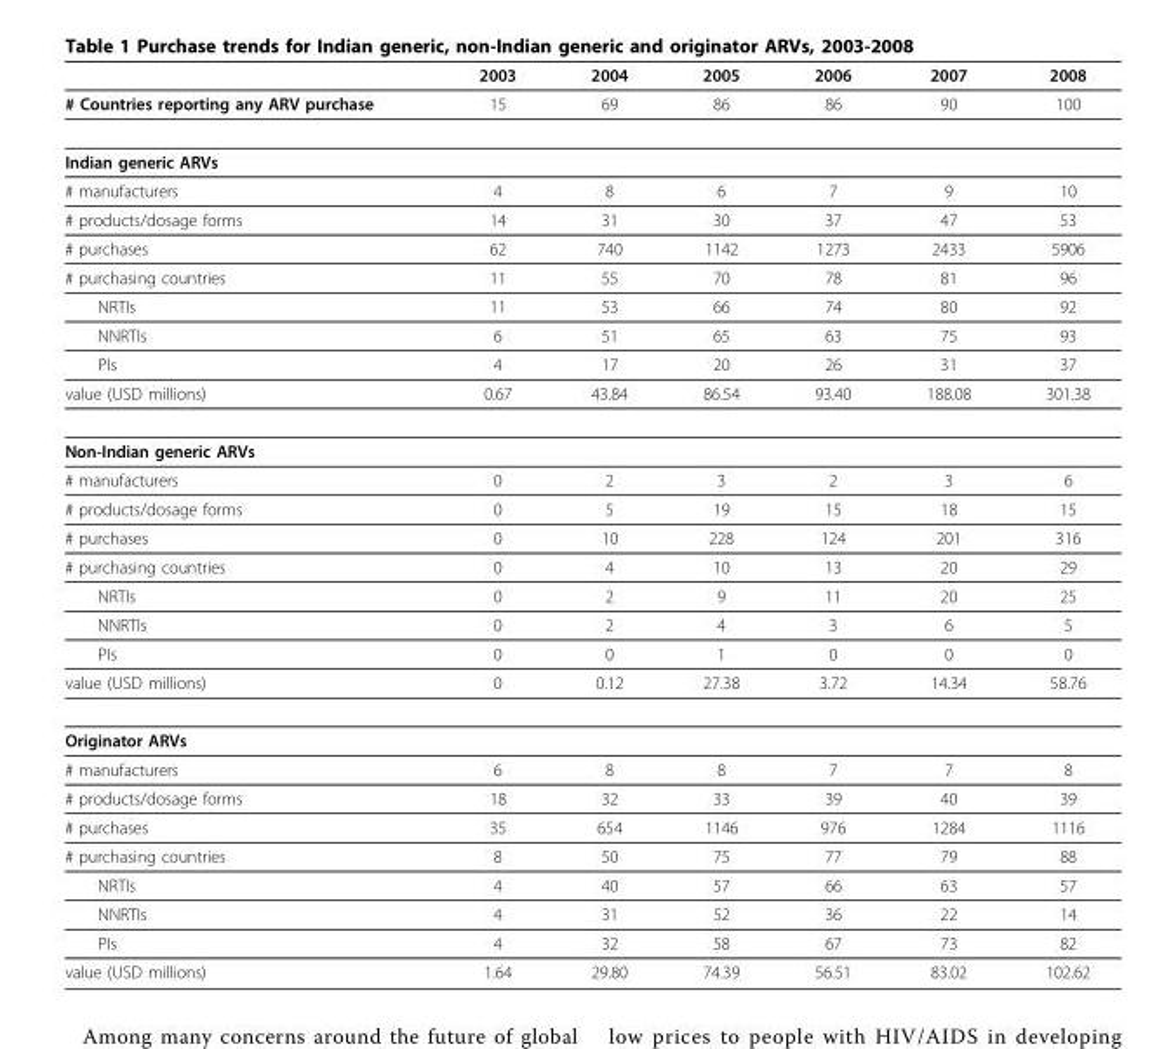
<table><thead><tr><td></td><td>2003</td><td>2004</td><td>2005</td><td>2006</td><td>2007</td><td>2008</td></tr></thead><tbody><tr><td># Countries reporting any ARV purchase</td><td>15</td><td>69</td><td>86</td><td>86</td><td>90</td><td>100</td></tr><tr><td colspan="7">Indian generic ARVs</td></tr><tr><td># manufacturers</td><td>4</td><td>8</td><td>6</td><td>7</td><td>9</td><td>10</td></tr><tr><td># products/dosage forms</td><td>14</td><td>31</td><td>30</td><td>37</td><td>47</td><td>53</td></tr><tr><td># purchases</td><td>62</td><td>740</td><td>1142</td><td>1273</td><td>2433</td><td>5906</td></tr><tr><td># purchasing countries</td><td>11</td><td>55</td><td>70</td><td>78</td><td>81</td><td>96</td></tr><tr><td>NRTIs</td><td>11</td><td>53</td><td>66</td><td>74</td><td>80</td><td>92</td></tr><tr><td>NNRTIs</td><td>6</td><td>51</td><td>65</td><td>63</td><td>75</td><td>93</td></tr><tr><td>PIs</td><td>4</td><td>17</td><td>20</td><td>26</td><td>31</td><td>37</td></tr><tr><td>value (USD millions)</td><td>0.67</td><td>43.84</td><td>86.54</td><td>93.40</td><td>188.08</td><td>301.38</td></tr><tr><td colspan="7">Non-Indian generic ARVs</td></tr><tr><td># manufacturers</td><td>0</td><td>2</td><td>3</td><td>2</td><td>3</td><td>6</td></tr><tr><td># products/dosage forms</td><td>0</td><td>5</td><td>19</td><td>15</td><td>18</td><td>15</td></tr><tr><td># purchases</td><td>0</td><td>10</td><td>228</td><td>124</td><td>201</td><td>316</td></tr><tr><td># purchasing countries</td><td>0</td><td>4</td><td>10</td><td>13</td><td>20</td><td>29</td></tr><tr><td>NRTIs</td><td>0</td><td>2</td><td>9</td><td>11</td><td>20</td><td>25</td></tr><tr><td>NNRTIs</td><td>0</td><td>2</td><td>4</td><td>3</td><td>6</td><td>5</td></tr><tr><td>PIs</td><td>0</td><td>0</td><td>1</td><td>0</td><td>0</td><td>0</td></tr><tr><td>value (USD millions)</td><td>0</td><td>0.12</td><td>27.38</td><td>3.72</td><td>14.34</td><td>58.76</td></tr><tr><td colspan="7">Originator ARVs</td></tr><tr><td># manufacturers</td><td>6</td><td>8</td><td>8</td><td>7</td><td>7</td><td>8</td></tr><tr><td># products/dosage forms</td><td>18</td><td>32</td><td>33</td><td>39</td><td>40</td><td>39</td></tr><tr><td># purchases</td><td>35</td><td>654</td><td>1146</td><td>976</td><td>1284</td><td>1116</td></tr><tr><td># purchasing countries</td><td>8</td><td>50</td><td>75</td><td>77</td><td>79</td><td>88</td></tr><tr><td>NRTIs</td><td>4</td><td>40</td><td>57</td><td>66</td><td>63</td><td>57</td></tr><tr><td>NNRTIs</td><td>4</td><td>31</td><td>52</td><td>36</td><td>22</td><td>14</td></tr><tr><td>PIs</td><td>4</td><td>32</td><td>58</td><td>67</td><td>73</td><td>82</td></tr><tr><td>value (USD millions)</td><td>1.64</td><td>29.80</td><td>74.39</td><td>56.51</td><td>83.02</td><td>102.62</td></tr></tbody></table>